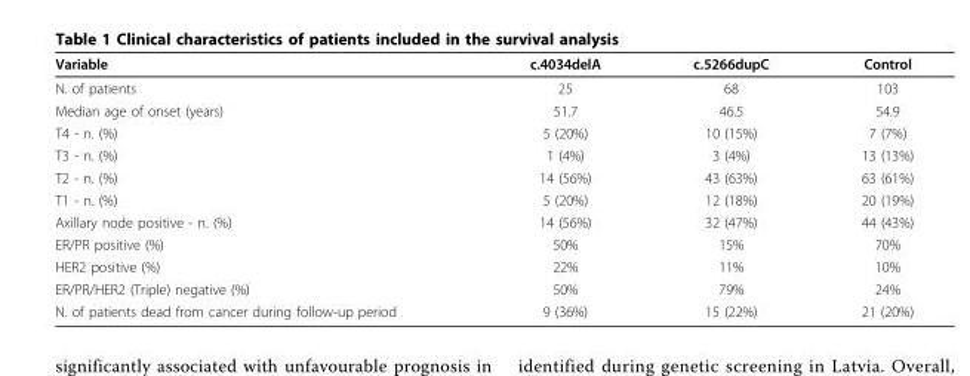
<table><thead><tr><td>Variable</td><td>c.4034delA</td><td>c.5266dupC</td><td>Control</td></tr></thead><tbody><tr><td>N. of patients</td><td>25</td><td>68</td><td>103</td></tr><tr><td>Median age of onset (years)</td><td>51.7</td><td>46.5</td><td>54.9</td></tr><tr><td>T4 - n. (%)</td><td>5 (20%)</td><td>10 (15%)</td><td>7 (7%)</td></tr><tr><td>T3 - n. (%)</td><td>1 (4%)</td><td>3 (4%)</td><td>13 (13%)</td></tr><tr><td>T2 - n. (%)</td><td>14 (56%)</td><td>43 (63%)</td><td>63 (61%)</td></tr><tr><td>T1 - n. (%)</td><td>5 (20%)</td><td>12 (18%)</td><td>20 (19%)</td></tr><tr><td>Axillary node positive - n. (%)</td><td>14 (56%)</td><td>32 (47%)</td><td>44 (43%)</td></tr><tr><td>ER/PR positive (%)</td><td>50%</td><td>15%</td><td>70%</td></tr><tr><td>HER2 positive (%)</td><td>22%</td><td>11%</td><td>10%</td></tr><tr><td>ER/PR/HER2 (Triple) negative (%)</td><td>50%</td><td>79%</td><td>24%</td></tr><tr><td>N. of patients dead from cancer during follow-up period</td><td>9 (36%)</td><td>15 (22%)</td><td>21 (20%)</td></tr></tbody></table>